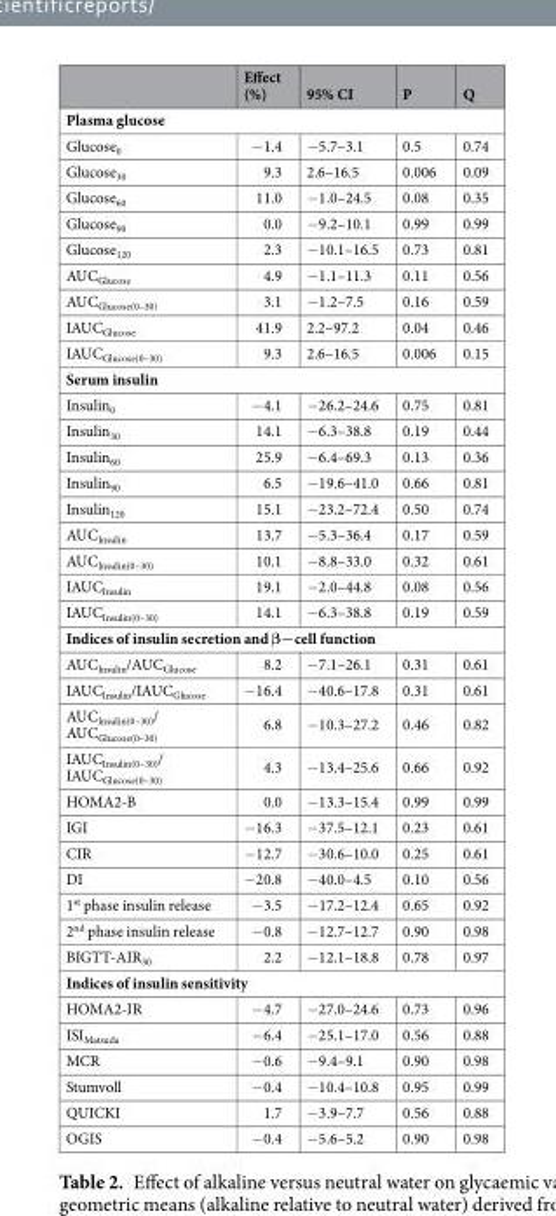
<table><thead><tr><td></td><td>Effect (%)</td><td>95% CI</td><td>P</td><td>Q</td></tr></thead><tbody><tr><td colspan="5">Plasma glucose</td></tr><tr><td>Glucose<sub>0</sub></td><td>−1.4</td><td>−5.7–3.1</td><td>0.5</td><td>0.74</td></tr><tr><td>Glucose<sub>30</sub></td><td>9.3</td><td>2.6–16.5</td><td>0.006</td><td>0.09</td></tr><tr><td>Glucose<sub>60</sub></td><td>11.0</td><td>−1.0–24.5</td><td>0.08</td><td>0.35</td></tr><tr><td>Glucose<sub>90</sub></td><td>0.0</td><td>−9.2–10.1</td><td>0.99</td><td>0.99</td></tr><tr><td>Glucose<sub>120</sub></td><td>2.3</td><td>−10.1–16.5</td><td>0.73</td><td>0.81</td></tr><tr><td>AUC<sub>Glucose</sub></td><td>4.9</td><td>−1.1–11.3</td><td>0.11</td><td>0.56</td></tr><tr><td>AUC<sub>Glucose(0–30)</sub></td><td>3.1</td><td>−1.2–7.5</td><td>0.16</td><td>0.59</td></tr><tr><td>IAUC<sub>Glucose</sub></td><td>41.9</td><td>2.2–97.2</td><td>0.04</td><td>0.46</td></tr><tr><td>IAUC<sub>Glucose(0–30)</sub></td><td>9.3</td><td>2.6–16.5</td><td>0.006</td><td>0.15</td></tr><tr><td colspan="5">Serum insulin</td></tr><tr><td>Insulin<sub>0</sub></td><td>−4.1</td><td>−26.2–24.6</td><td>0.75</td><td>0.81</td></tr><tr><td>Insulin<sub>30</sub></td><td>14.1</td><td>−6.3–38.8</td><td>0.19</td><td>0.44</td></tr><tr><td>Insulin<sub>60</sub></td><td>25.9</td><td>−6.4–69.3</td><td>0.13</td><td>0.36</td></tr><tr><td>Insulin<sub>90</sub></td><td>6.5</td><td>−19.6–41.0</td><td>0.66</td><td>0.81</td></tr><tr><td>Insulin<sub>120</sub></td><td>15.1</td><td>−23.2–72.4</td><td>0.50</td><td>0.74</td></tr><tr><td>AUC<sub>Insulin</sub></td><td>13.7</td><td>−5.3–36.4</td><td>0.17</td><td>0.59</td></tr><tr><td>AUC<sub>Insulin(0–30)</sub></td><td>10.1</td><td>−8.8–33.0</td><td>0.32</td><td>0.61</td></tr><tr><td>IAUC<sub>Insulin</sub></td><td>19.1</td><td>−2.0–44.8</td><td>0.08</td><td>0.56</td></tr><tr><td>IAUC<sub>Insulin(0–30)</sub></td><td>14.1</td><td>−6.3–38.8</td><td>0.19</td><td>0.59</td></tr><tr><td colspan="5">Indices of insulin secretion and β−cell function</td></tr><tr><td>AUC<sub>Insulin</sub>/AUC<sub>Glucose</sub></td><td>8.2</td><td>−7.1–26.1</td><td>0.31</td><td>0.61</td></tr><tr><td>IAUC<sub>Insulin</sub>/IAUC<sub>Glucose</sub></td><td>−16.4</td><td>−40.6–17.8</td><td>0.31</td><td>0.61</td></tr><tr><td>AUC<sub>Insulin(0–30)</sub>/ AUC<sub>Glucose(0–30)</sub></td><td>6.8</td><td>−10.3–27.2</td><td>0.46</td><td>0.82</td></tr><tr><td>IAUC<sub>Insulin(0–30)</sub>/ IAUC<sub>Glucose(0–30)</sub></td><td>4.3</td><td>−13.4–25.6</td><td>0.66</td><td>0.92</td></tr><tr><td>HOMA2-B</td><td>0.0</td><td>−13.3–15.4</td><td>0.99</td><td>0.99</td></tr><tr><td>IGI</td><td>−16.3</td><td>−37.5–12.1</td><td>0.23</td><td>0.61</td></tr><tr><td>CIR</td><td>−12.7</td><td>−30.6–10.0</td><td>0.25</td><td>0.61</td></tr><tr><td>DI</td><td>−20.8</td><td>−40.0–4.5</td><td>0.10</td><td>0.56</td></tr><tr><td>1<sup>st</sup> phase insulin release</td><td>−3.5</td><td>−17.2–12.4</td><td>0.65</td><td>0.92</td></tr><tr><td>2<sup>nd</sup> phase insulin release</td><td>−0.8</td><td>−12.7–12.7</td><td>0.90</td><td>0.98</td></tr><tr><td>BIGTT-AIR<sub>30</sub></td><td>2.2</td><td>−12.1–18.8</td><td>0.78</td><td>0.97</td></tr><tr><td colspan="5">Indices of insulin sensitivity</td></tr><tr><td>HOMA2-IR</td><td>−4.7</td><td>−27.0–24.6</td><td>0.73</td><td>0.96</td></tr><tr><td>ISI<sub>Matsuda</sub></td><td>−6.4</td><td>−25.1–17.0</td><td>0.56</td><td>0.88</td></tr><tr><td>MCR</td><td>−0.6</td><td>−9.4–9.1</td><td>0.90</td><td>0.98</td></tr><tr><td>Stumvoll</td><td>−0.4</td><td>−10.4–10.8</td><td>0.95</td><td>0.99</td></tr><tr><td>QUICKI</td><td>1.7</td><td>−3.9–7.7</td><td>0.56</td><td>0.88</td></tr><tr><td>OGIS</td><td>−0.4</td><td>−5.6–5.2</td><td>0.90</td><td>0.98</td></tr></tbody></table>